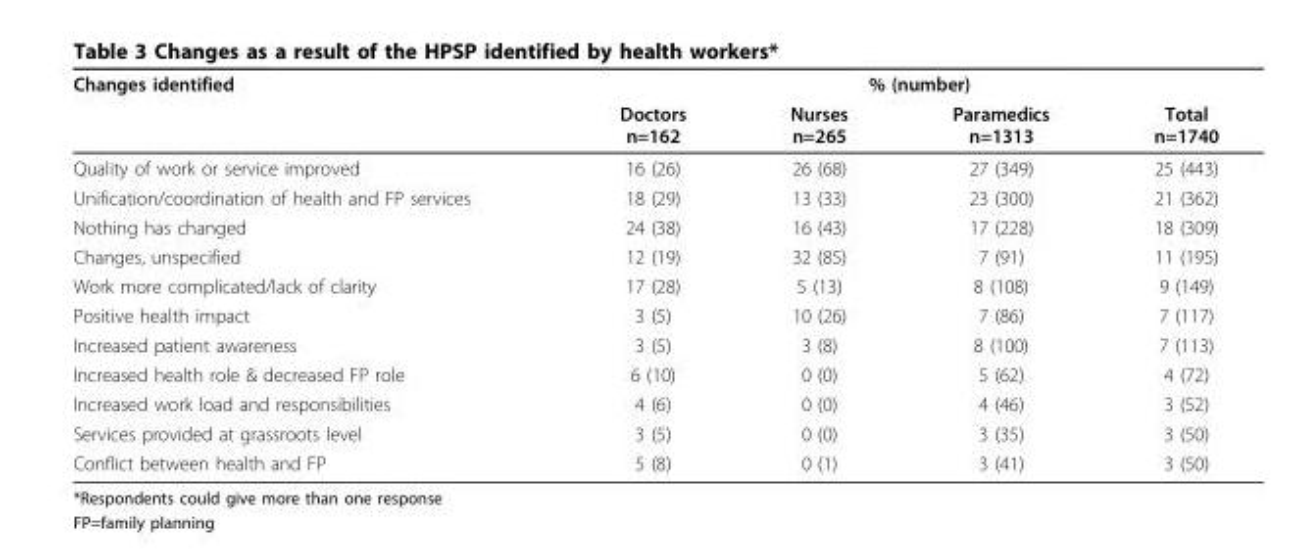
<table><thead><tr><td rowspan="2">Changes identified</td><td colspan="4">% (number)</td></tr><tr><td>Doctors n=162</td><td>Nurses n=265</td><td>Paramedics n=1313</td><td>Total n=1740</td></tr></thead><tbody><tr><td>Quality of work or service improved</td><td>16 (26)</td><td>26 (68)</td><td>27 (349)</td><td>25 (443)</td></tr><tr><td>Unification/coordination of health and FP services</td><td>18 (29)</td><td>13 (33)</td><td>23 (300)</td><td>21 (362)</td></tr><tr><td>Nothing has changed</td><td>24 (38)</td><td>16 (43)</td><td>17 (228)</td><td>18 (309)</td></tr><tr><td>Changes, unspecified</td><td>12 (19)</td><td>32 (85)</td><td>7 (91)</td><td>11 (195)</td></tr><tr><td>Work more complicated/lack of clarity</td><td>17 (28)</td><td>5 (13)</td><td>8 (108)</td><td>9 (149)</td></tr><tr><td>Positive health impact</td><td>3 (5)</td><td>10 (26)</td><td>7 (86)</td><td>7 (117)</td></tr><tr><td>Increased patient awareness</td><td>3 (5)</td><td>3 (8)</td><td>8 (100)</td><td>7 (113)</td></tr><tr><td>Increased health role &amp; decreased FP role</td><td>6 (10)</td><td>0 (0)</td><td>5 (62)</td><td>4 (72)</td></tr><tr><td>Increased work load and responsibilities</td><td>4 (6)</td><td>0 (0)</td><td>4 (46)</td><td>3 (52)</td></tr><tr><td>Services provided at grassroots level</td><td>3 (5)</td><td>0 (0)</td><td>3 (35)</td><td>3 (50)</td></tr><tr><td>Conflict between health and FP</td><td>5 (8)</td><td>0 (1)</td><td>3 (41)</td><td>3 (50)</td></tr></tbody></table>